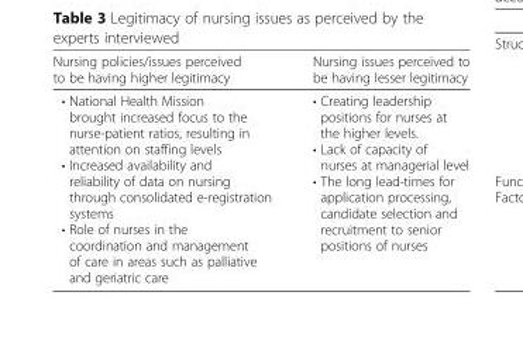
<table><thead><tr><td>Nursing policies/issues perceived to be having higher legitimacy</td><td>Nursing issues perceived to be having lesser legitimacy</td></tr></thead><tbody><tr><td>• National Health Mission brought increased focus to the nurse-patient ratios, resulting in attention on staffing levels • Increased availability and reliability of data on nursing through consolidated e-registration systems • Role of nurses in the coordination and management of care in areas such as palliative and geriatric care</td><td>• Creating leadership positions for nurses at the higher levels. • Lack of capacity of nurses at managerial level • The long lead-times for application processing, candidate selection and recruitment to senior positions of nurses</td></tr></tbody></table>